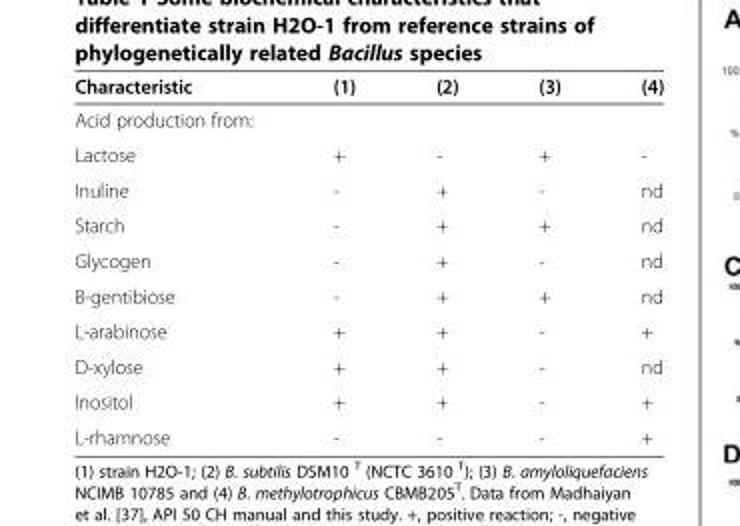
<table><thead><tr><td>Characteristic</td><td>(1)</td><td>(2)</td><td>(3)</td><td>(4)</td></tr></thead><tbody><tr><td colspan="5">Acid production from:</td></tr><tr><td>Lactose</td><td>+</td><td>-</td><td>+</td><td>-</td></tr><tr><td>Inuline</td><td>-</td><td>+</td><td>-</td><td>nd</td></tr><tr><td>Starch</td><td>-</td><td>+</td><td>+</td><td>nd</td></tr><tr><td>Glycogen</td><td>-</td><td>+</td><td>-</td><td>nd</td></tr><tr><td>Β-gentibiose</td><td>-</td><td>+</td><td>+</td><td>nd</td></tr><tr><td>L-arabinose</td><td>+</td><td>+</td><td>-</td><td>+</td></tr><tr><td>D-xylose</td><td>+</td><td>+</td><td>-</td><td>nd</td></tr><tr><td>Inositol</td><td>+</td><td>+</td><td>-</td><td>+</td></tr><tr><td>L-rhamnose</td><td>-</td><td>-</td><td>-</td><td>+</td></tr></tbody></table>